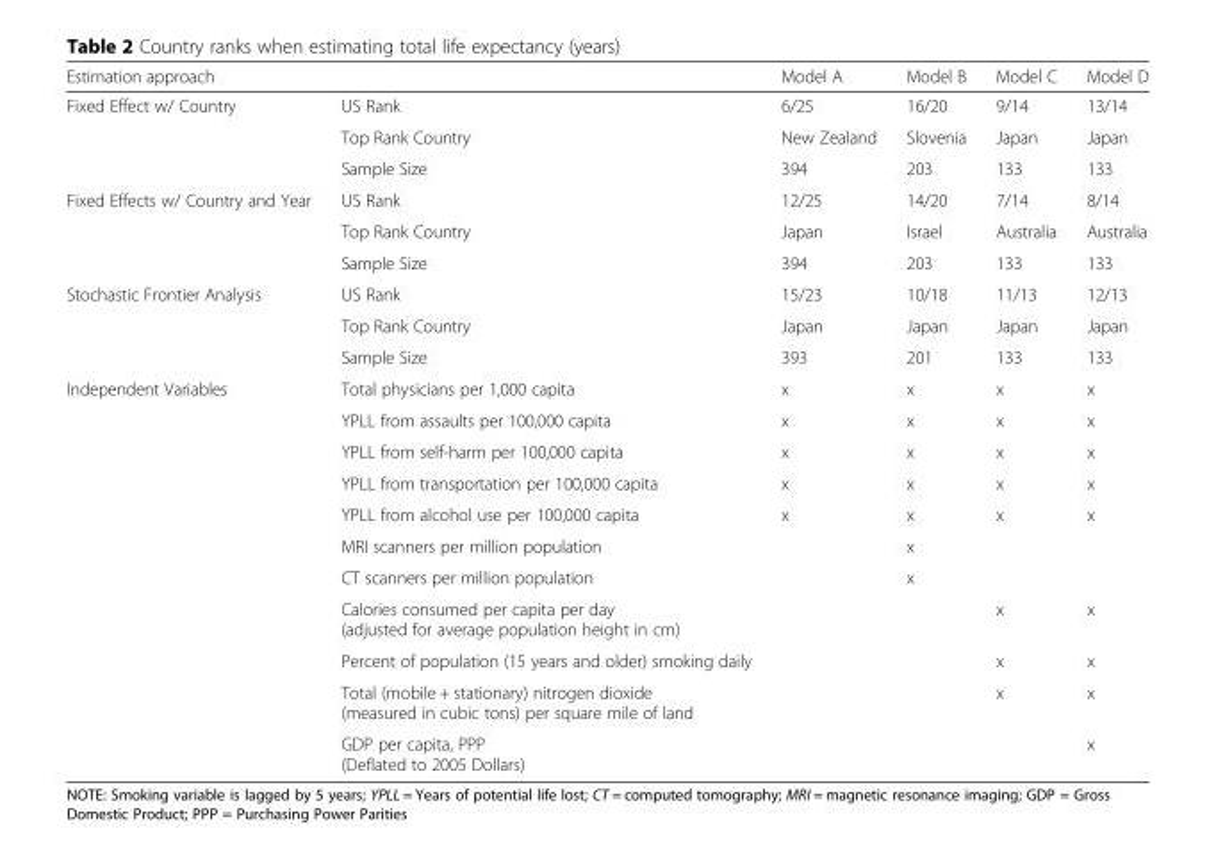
<table><thead><tr><td>Estimation approach</td><td></td><td>Model A</td><td>Model B</td><td>Model C</td><td>Model D</td></tr></thead><tbody><tr><td rowspan="3">Fixed Effect w/ Country</td><td>US Rank</td><td>6/25</td><td>16/20</td><td>9/14</td><td>13/14</td></tr><tr><td>Top Rank Country</td><td>New Zealand</td><td>Slovenia</td><td>Japan</td><td>Japan</td></tr><tr><td>Sample Size</td><td>394</td><td>203</td><td>133</td><td>133</td></tr><tr><td rowspan="3">Fixed Effects w/ Country and Year</td><td>US Rank</td><td>12/25</td><td>14/20</td><td>7/14</td><td>8/14</td></tr><tr><td>Top Rank Country</td><td>Japan</td><td>Israel</td><td>Australia</td><td>Australia</td></tr><tr><td>Sample Size</td><td>394</td><td>203</td><td>133</td><td>133</td></tr><tr><td rowspan="3">Stochastic Frontier Analysis</td><td>US Rank</td><td>15/23</td><td>10/18</td><td>11/13</td><td>12/13</td></tr><tr><td>Top Rank Country</td><td>Japan</td><td>Japan</td><td>Japan</td><td>Japan</td></tr><tr><td>Sample Size</td><td>393</td><td>201</td><td>133</td><td>133</td></tr><tr><td rowspan="11">Independent Variables</td><td>Total physicians per 1,000 capita</td><td>x</td><td>x</td><td>x</td><td>x</td></tr><tr><td>YPLL from assaults per 100,000 capita</td><td>x</td><td>x</td><td>x</td><td>x</td></tr><tr><td>YPLL from self-harm per 100,000 capita</td><td>x</td><td>x</td><td>x</td><td>x</td></tr><tr><td>YPLL from transportation per 100,000 capita</td><td>x</td><td>x</td><td>x</td><td>x</td></tr><tr><td>YPLL from alcohol use per 100,000 capita</td><td>x</td><td>x</td><td>x</td><td>x</td></tr><tr><td>MRI scanners per million population</td><td></td><td>x</td><td></td><td></td></tr><tr><td>CT scanners per million population</td><td></td><td>x</td><td></td><td></td></tr><tr><td>Calories consumed per capita per day (adjusted for average population height in cm)</td><td></td><td></td><td>x</td><td>x</td></tr><tr><td>Percent of population (15 years and older) smoking daily</td><td></td><td></td><td>x</td><td>x</td></tr><tr><td>Total (mobile + stationary) nitrogen dioxide (measured in cubic tons) per square mile of land</td><td></td><td></td><td>x</td><td>x</td></tr><tr><td>GDP per capita, PPP (Deflated to 2005 Dollars)</td><td></td><td></td><td></td><td>x</td></tr></tbody></table>